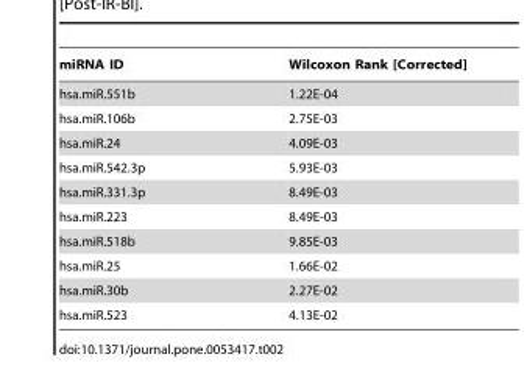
<table><thead><tr><td>miRNA ID</td><td>Wilcoxon Rank [Corrected]</td></tr></thead><tbody><tr><td>hsa.miR.551b</td><td>1.22E-04</td></tr><tr><td>hsa.miR.106b</td><td>2.75E-03</td></tr><tr><td>hsa.miR.24</td><td>4.09E-03</td></tr><tr><td>hsa.miR.542.3p</td><td>5.93E-03</td></tr><tr><td>hsa.miR.331.3p</td><td>8.49E-03</td></tr><tr><td>hsa.miR.223</td><td>8.49E-03</td></tr><tr><td>hsa.miR.518b</td><td>9.85E-03</td></tr><tr><td>hsa.miR.25</td><td>1.66E-02</td></tr><tr><td>hsa.miR.30b</td><td>2.27E-02</td></tr><tr><td>hsa.miR.523</td><td>4.13E-02</td></tr></tbody></table>